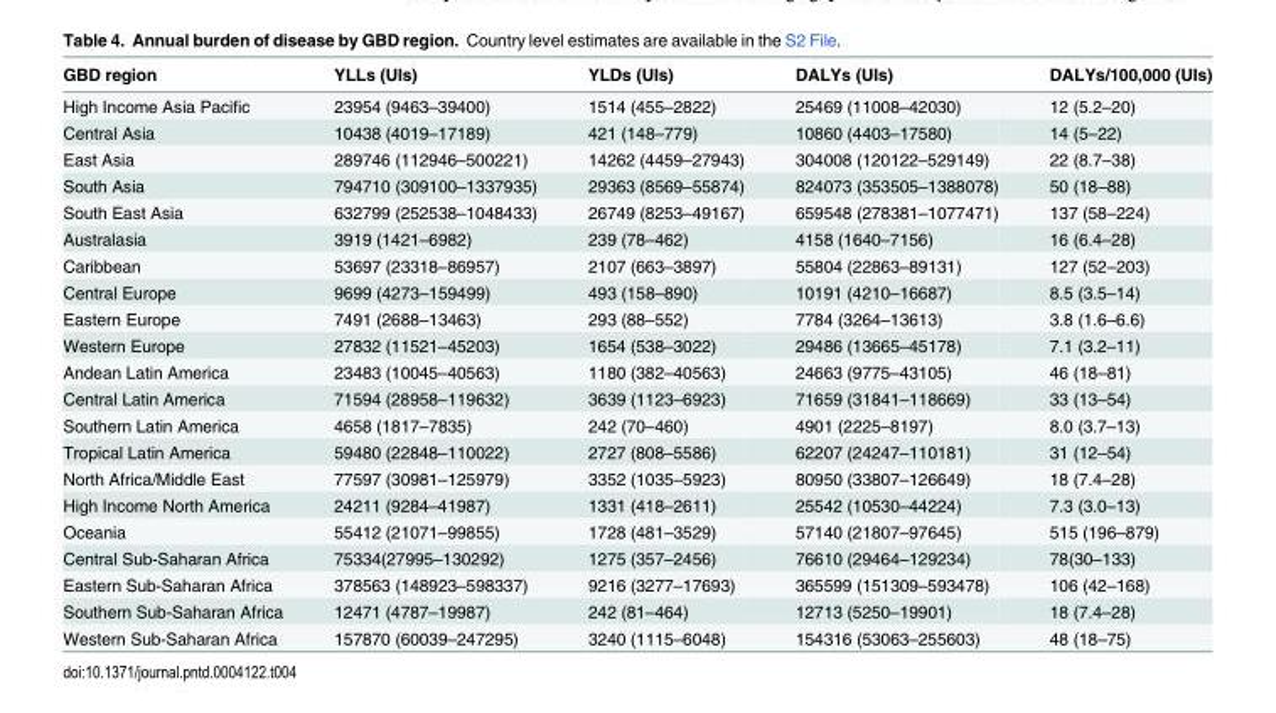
<table><thead><tr><td>GBD region</td><td>YLLs (UIs)</td><td>YLDs (UIs)</td><td>DALYs (UIs)</td><td>DALYs/100,000 (UIs)</td></tr></thead><tbody><tr><td>High Income Asia Pacific</td><td>23954 (9463–39400)</td><td>1514 (455–2822)</td><td>25469 (11008–42030)</td><td>12 (5.2–20)</td></tr><tr><td>Central Asia</td><td>10438 (4019–17189)</td><td>421 (148–779)</td><td>10860 (4403–17580)</td><td>14 (5–22)</td></tr><tr><td>East Asia</td><td>289746 (112946–500221)</td><td>14262 (4459–27943)</td><td>304008 (120122–529149)</td><td>22 (8.7–38)</td></tr><tr><td>South Asia</td><td>794710 (309100–1337935)</td><td>29363 (8569–55874)</td><td>824073 (353505–1388078)</td><td>50 (18–88)</td></tr><tr><td>South East Asia</td><td>632799 (252538–1048433)</td><td>26749 (8253–49167)</td><td>659548 (278381–1077471)</td><td>137 (58–224)</td></tr><tr><td>Australasia</td><td>3919 (1421–6982)</td><td>239 (78–462)</td><td>4158 (1640–7156)</td><td>16 (6.4–28)</td></tr><tr><td>Caribbean</td><td>53697 (23318–86957)</td><td>2107 (663–3897)</td><td>55804 (22863–89131)</td><td>127 (52–203)</td></tr><tr><td>Central Europe</td><td>9699 (4273–159499)</td><td>493 (158–890)</td><td>10191 (4210–16687)</td><td>8.5 (3.5–14)</td></tr><tr><td>Eastern Europe</td><td>7491 (2688–13463)</td><td>293 (88–552)</td><td>7784 (3264–13613)</td><td>3.8 (1.6–6.6)</td></tr><tr><td>Western Europe</td><td>27832 (11521–45203)</td><td>1654 (538–3022)</td><td>29486 (13665–45178)</td><td>7.1 (3.2–11)</td></tr><tr><td>Andean Latin America</td><td>23483 (10045–40563)</td><td>1180 (382–40563)</td><td>24663 (9775–43105)</td><td>46 (18–81)</td></tr><tr><td>Central Latin America</td><td>71594 (28958–119632)</td><td>3639 (1123–6923)</td><td>71659 (31841–118669)</td><td>33 (13–54)</td></tr><tr><td>Southern Latin America</td><td>4658 (1817–7835)</td><td>242 (70–460)</td><td>4901 (2225–8197)</td><td>8.0 (3.7–13)</td></tr><tr><td>Tropical Latin America</td><td>59480 (22848–110022)</td><td>2727 (808–5586)</td><td>62207 (24247–110181)</td><td>31 (12–54)</td></tr><tr><td>North Africa/Middle East</td><td>77597 (30981–125979)</td><td>3352 (1035–5923)</td><td>80950 (33807–126649)</td><td>18 (7.4–28)</td></tr><tr><td>High Income North America</td><td>24211 (9284–41987)</td><td>1331 (418–2611)</td><td>25542 (10530–44224)</td><td>7.3 (3.0–13)</td></tr><tr><td>Oceania</td><td>55412 (21071–99855)</td><td>1728 (481–3529)</td><td>57140 (21807–97645)</td><td>515 (196–879)</td></tr><tr><td>Central Sub-Saharan Africa</td><td>75334(27995–130292)</td><td>1275 (357–2456)</td><td>76610 (29464–129234)</td><td>78(30–133)</td></tr><tr><td>Eastern Sub-Saharan Africa</td><td>378563 (148923–598337)</td><td>9216 (3277–17693)</td><td>365599 (151309–593478)</td><td>106 (42–168)</td></tr><tr><td>Southern Sub-Saharan Africa</td><td>12471 (4787–19987)</td><td>242 (81–464)</td><td>12713 (5250–19901)</td><td>18 (7.4–28)</td></tr><tr><td>Western Sub-Saharan Africa</td><td>157870 (60039–247295)</td><td>3240 (1115–6048)</td><td>154316 (53063–255603)</td><td>48 (18–75)</td></tr></tbody></table>